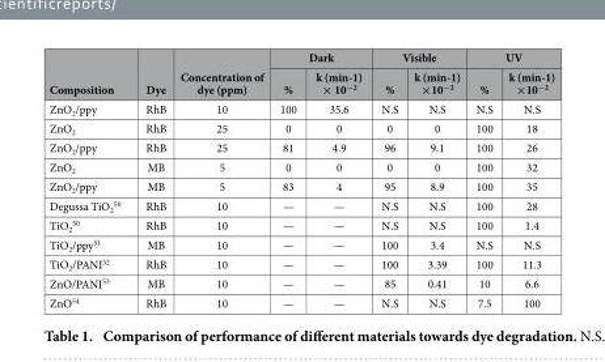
<table><thead><tr><td rowspan="2">Composition</td><td rowspan="2">Dye</td><td rowspan="2">Concentration of dye (ppm)</td><td colspan="2">Dark</td><td colspan="2">Visible</td><td colspan="2">UV</td></tr><tr><td>%</td><td>k (min-1) × 10<sup>−2</sup></td><td>%</td><td>k (min-1) ×10<sup>−2</sup></td><td>%</td><td>k (min-1) ×10<sup>−2</sup></td></tr></thead><tbody><tr><td>ZnO<sub>2</sub>/ppy</td><td>RhB</td><td>10</td><td>100</td><td>35.6</td><td>N.S</td><td>N.S</td><td>N.S</td><td>N.S</td></tr><tr><td>ZnO<sub>2</sub></td><td>RhB</td><td>25</td><td>0</td><td>0</td><td>0</td><td>0</td><td>100</td><td>18</td></tr><tr><td>ZnO<sub>2</sub>/ppy</td><td>RhB</td><td>25</td><td>81</td><td>4.9</td><td>96</td><td>9.1</td><td>100</td><td>26</td></tr><tr><td>ZnO<sub>2</sub></td><td>MB</td><td>5</td><td>0</td><td>0</td><td>0</td><td>0</td><td>100</td><td>32</td></tr><tr><td>ZnO<sub>2</sub>/ppy</td><td>MB</td><td>5</td><td>83</td><td>4</td><td>95</td><td>8.9</td><td>100</td><td>35</td></tr><tr><td>Degussa TiO<sub>2</sub> <sup>50</sup></td><td>RhB</td><td>10</td><td>—</td><td>—</td><td>N.S</td><td>N.S</td><td>100</td><td>28</td></tr><tr><td>TiO<sub>2</sub> <sup>50</sup></td><td>RhB</td><td>10</td><td>—</td><td>—</td><td>N.S</td><td>N.S</td><td>100</td><td>1.4</td></tr><tr><td>TiO<sub>2</sub>/ppy<sup>51</sup></td><td>MB</td><td>10</td><td>—</td><td>—</td><td>100</td><td>3.4</td><td>N.S</td><td>N.S</td></tr><tr><td>TiO<sub>2</sub>/PANI<sup>52</sup></td><td>RhB</td><td>10</td><td>—</td><td>—</td><td>100</td><td>3.39</td><td>100</td><td>11.3</td></tr><tr><td>ZnO/PANI<sup>53</sup></td><td>MB</td><td>10</td><td>—</td><td>—</td><td>85</td><td>0.41</td><td>10</td><td>6.6</td></tr><tr><td>ZnO<sup>54</sup></td><td>RhB</td><td>10</td><td>—</td><td>—</td><td>N.S</td><td>N.S</td><td>7.5</td><td>100</td></tr></tbody></table>